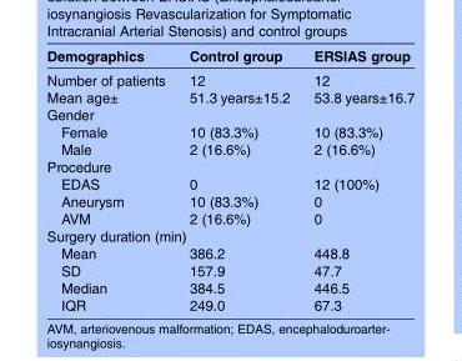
<table><thead><tr><td>Demographics</td><td>Control group</td><td>ERSIAS group</td></tr></thead><tbody><tr><td>Number of patients</td><td>12</td><td>12</td></tr><tr><td>Mean age±</td><td>51.3 years±15.2</td><td>53.8 years±16.7</td></tr><tr><td colspan="3">Gender</td></tr><tr><td>Female</td><td>10 (83.3%)</td><td>10 (83.3%)</td></tr><tr><td>Male</td><td>2 (16.6%)</td><td>2 (16.6%)</td></tr><tr><td colspan="3">Procedure</td></tr><tr><td>EDAS</td><td>0</td><td>12 (100%)</td></tr><tr><td>Aneurysm</td><td>10 (83.3%)</td><td>0</td></tr><tr><td>AVM</td><td>2 (16.6%)</td><td>0</td></tr><tr><td colspan="3">Surgery duration (min)</td></tr><tr><td>Mean</td><td>386.2</td><td>448.8</td></tr><tr><td>SD</td><td>157.9</td><td>47.7</td></tr><tr><td>Median</td><td>384.5</td><td>446.5</td></tr><tr><td>IQR</td><td>249.0</td><td>67.3</td></tr></tbody></table>